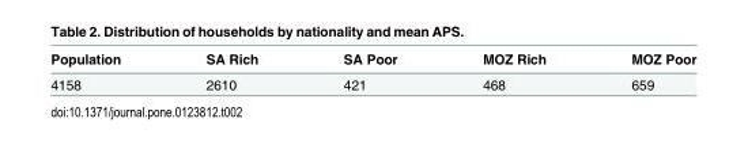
<table><thead><tr><td>Population</td><td>SA Rich</td><td>SA Poor</td><td>MOZ Rich</td><td>MOZ Poor</td></tr></thead><tbody><tr><td>4158</td><td>2610</td><td>421</td><td>468</td><td>659</td></tr></tbody></table>